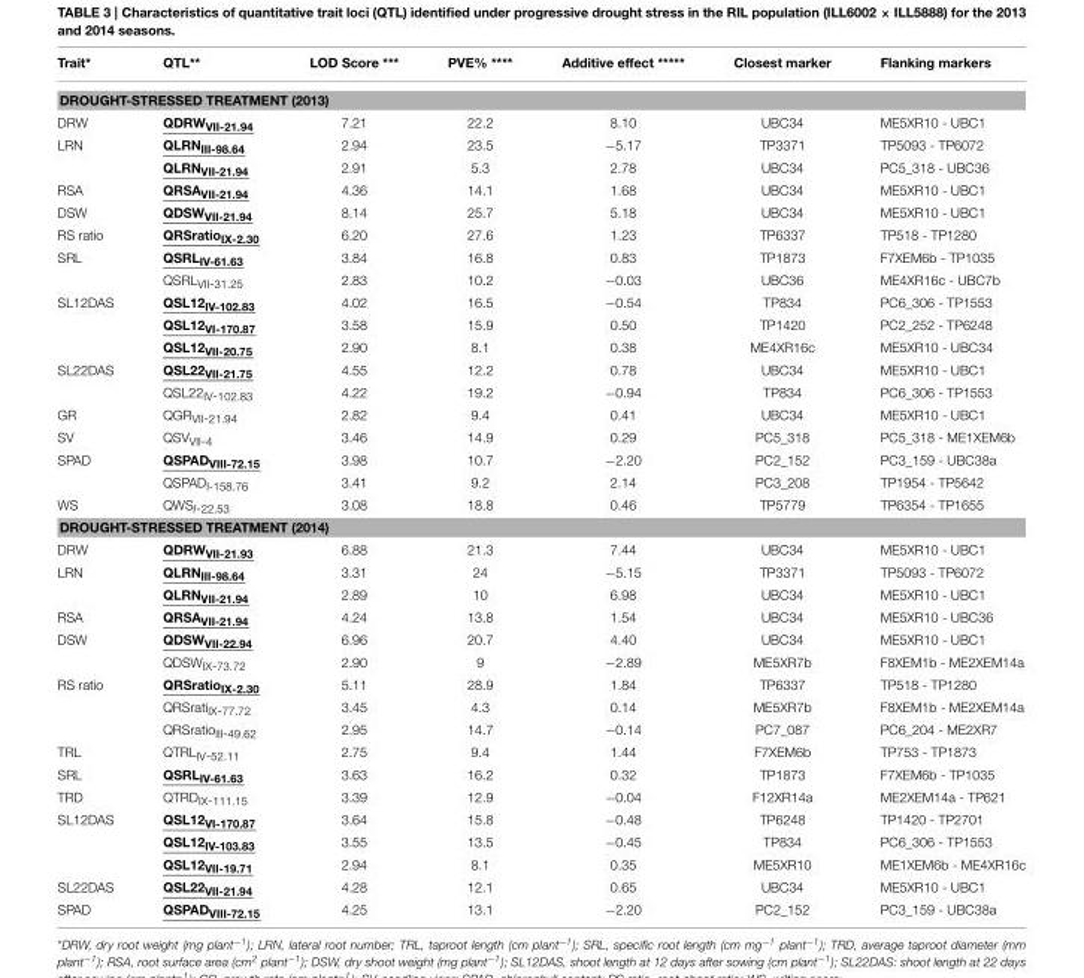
<table><thead><tr><td>Trait*</td><td>QTL**</td><td>LOD Score ***</td><td>PVE% ****</td><td>Additive effect *****</td><td>Closest marker</td><td>Flanking markers</td></tr></thead><tbody><tr><td colspan="7">DROUGHT-STRESSED TREATMENT (2013)</td></tr><tr><td>DRW</td><td>QDRW<sub>VII-21.94</sub></td><td>7.21</td><td>22.2</td><td>8.10</td><td>UBC34</td><td>ME5XR10 - UBC1</td></tr><tr><td rowspan="2">LRN</td><td>QLRN<sub>III-98.64</sub></td><td>2.94</td><td>23.5</td><td>−5.17</td><td>TP3371</td><td>TP5093 - TP6072</td></tr><tr><td>QLRN<sub>VII-21.94</sub></td><td>2.91</td><td>5.3</td><td>2.78</td><td>UBC34</td><td>PC5_318 - UBC36</td></tr><tr><td>RSA</td><td>QRSA<sub>VII-21.94</sub></td><td>4.36</td><td>14.1</td><td>1.68</td><td>UBC34</td><td>ME5XR10 - UBC1</td></tr><tr><td>DSW</td><td>QDSW<sub>VII-21.94</sub></td><td>8.14</td><td>25.7</td><td>5.18</td><td>UBC34</td><td>ME5XR10 - UBC1</td></tr><tr><td>RS ratio</td><td>QRSratio<sub>IX-2.30</sub></td><td>6.20</td><td>27.6</td><td>1.23</td><td>TP6337</td><td>TP518 - TP1280</td></tr><tr><td rowspan="2">SRL</td><td>QSRL<sub>IV-61.63</sub></td><td>3.84</td><td>16.8</td><td>0.83</td><td>TP1873</td><td>F7XEM6b - TP1035</td></tr><tr><td>QSRL<sub>VII-31.25</sub></td><td>2.83</td><td>10.2</td><td>−0.03</td><td>UBC36</td><td>ME4XR16c - UBC7b</td></tr><tr><td rowspan="3">SL12DAS</td><td>QSL12<sub>IV-102.83</sub></td><td>4.02</td><td>16.5</td><td>−0.54</td><td>TP834</td><td>PC6_306 - TP1553</td></tr><tr><td>QSL12<sub>VI-170.87</sub></td><td>3.58</td><td>15.9</td><td>0.50</td><td>TP1420</td><td>PC2_252 - TP6248</td></tr><tr><td>QSL12<sub>VII-20.75</sub></td><td>2.90</td><td>8.1</td><td>0.38</td><td>ME4XR16c</td><td>ME5XR10 - UBC34</td></tr><tr><td rowspan="2">SL22DAS</td><td>QSL22<sub>VII-21.75</sub></td><td>4.55</td><td>12.2</td><td>0.78</td><td>UBC34</td><td>ME5XR10 - UBC1</td></tr><tr><td>QSL22<sub>IV-102.83</sub></td><td>4.22</td><td>19.2</td><td>−0.94</td><td>TP834</td><td>PC6_306 - TP1553</td></tr><tr><td>GR</td><td>QGR<sub>VII-21.94</sub></td><td>2.82</td><td>9.4</td><td>0.41</td><td>UBC34</td><td>ME5XR10 - UBC1</td></tr><tr><td>SV</td><td>QSV<sub>VII-4</sub></td><td>3.46</td><td>14.9</td><td>0.29</td><td>PC5_318</td><td>PC5_318 - ME1XEM6b</td></tr><tr><td rowspan="2">SPAD</td><td>QSPAD<sub>VIII-72.15</sub></td><td>3.98</td><td>10.7</td><td>−2.20</td><td>PC2_152</td><td>PC3_159 - UBC38a</td></tr><tr><td>QSPAD<sub>I-158.76</sub></td><td>3.41</td><td>9.2</td><td>2.14</td><td>PC3_208</td><td>TP1954 - TP5642</td></tr><tr><td>WS</td><td>QWS<sub>I-22.53</sub></td><td>3.08</td><td>18.8</td><td>0.46</td><td>TP5779</td><td>TP6354 - TP1655</td></tr><tr><td colspan="7">DROUGHT-STRESSED TREATMENT (2014)</td></tr><tr><td>DRW</td><td>QDRW<sub>VII-21.93</sub></td><td>6.88</td><td>21.3</td><td>7.44</td><td>UBC34</td><td>ME5XR10 - UBC1</td></tr><tr><td rowspan="2">LRN</td><td>QLRN<sub>III-98.64</sub></td><td>3.31</td><td>24</td><td>−5.15</td><td>TP3371</td><td>TP5093 - TP6072</td></tr><tr><td>QLRN<sub>VII-21.94</sub></td><td>2.89</td><td>10</td><td>6.98</td><td>UBC34</td><td>ME5XR10 - UBC1</td></tr><tr><td>RSA</td><td>QRSA<sub>VII-21.94</sub></td><td>4.24</td><td>13.8</td><td>1.54</td><td>UBC34</td><td>ME5XR10 - UBC36</td></tr><tr><td rowspan="2">DSW</td><td>QDSW<sub>VII-22.94</sub></td><td>6.96</td><td>20.7</td><td>4.40</td><td>UBC34</td><td>ME5XR10 - UBC1</td></tr><tr><td>QDSW<sub>IX-73.72</sub></td><td>2.90</td><td>9</td><td>−2.89</td><td>ME5XR7b</td><td>F8XEM1b - ME2XEM14a</td></tr><tr><td rowspan="3">RS ratio</td><td>QRSratio<sub>IX-2.30</sub></td><td>5.11</td><td>28.9</td><td>1.84</td><td>TP6337</td><td>TP518 - TP1280</td></tr><tr><td>QRSrati<sub>IX-77.72</sub></td><td>3.45</td><td>4.3</td><td>0.14</td><td>ME5XR7b</td><td>F8XEM1b - ME2XEM14a</td></tr><tr><td>QRSratio<sub>III-49.62</sub></td><td>2.95</td><td>14.7</td><td>−0.14</td><td>PC7_087</td><td>PC6_204 - ME2XR7</td></tr><tr><td>TRL</td><td>QTRL<sub>IV-52.11</sub></td><td>2.75</td><td>9.4</td><td>1.44</td><td>F7XEM6b</td><td>TP753 - TP1873</td></tr><tr><td>SRL</td><td>QSRL<sub>IV-61.63</sub></td><td>3.63</td><td>16.2</td><td>0.32</td><td>TP1873</td><td>F7XEM6b - TP1035</td></tr><tr><td>TRD</td><td>QTRD<sub>IX-111.15</sub></td><td>3.39</td><td>12.9</td><td>−0.04</td><td>F12XR14a</td><td>ME2XEM14a - TP621</td></tr><tr><td rowspan="3">SL12DAS</td><td>QSL12<sub>VI-170.87</sub></td><td>3.64</td><td>15.8</td><td>−0.48</td><td>TP6248</td><td>TP1420 - TP2701</td></tr><tr><td>QSL12<sub>IV-103.83</sub></td><td>3.55</td><td>13.5</td><td>−0.45</td><td>TP834</td><td>PC6_306 - TP1553</td></tr><tr><td>QSL12<sub>VII-19.71</sub></td><td>2.94</td><td>8.1</td><td>0.35</td><td>ME5XR10</td><td>ME1XEM6b - ME4XR16c</td></tr><tr><td>SL22DAS</td><td>QSL22<sub>VII-21.94</sub></td><td>4.28</td><td>12.1</td><td>0.65</td><td>UBC34</td><td>ME5XR10 - UBC1</td></tr><tr><td>SPAD</td><td>QSPAD<sub>VIII-72.15</sub></td><td>4.25</td><td>13.1</td><td>−2.20</td><td>PC2_152</td><td>PC3_159 - UBC38a</td></tr></tbody></table>